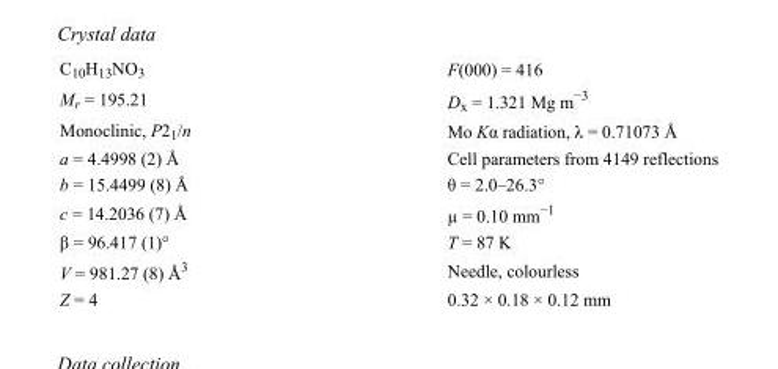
<table><tbody><tr><td>C<sub>10</sub>H<sub>13</sub>NO<sub>3</sub></td><td>F(000) = 416</td></tr><tr><td>M<sub>r</sub> = 195.21</td><td>D<sub>x</sub> = 1.321 Mg m<sup>−3</sup></td></tr><tr><td>Monoclinic, P2<sub>1</sub>/n</td><td>Mo Kα radiation, λ = 0.71073 Å</td></tr><tr><td>a = 4.4998 (2) Å</td><td>Cell parameters from 4149 reflections</td></tr><tr><td>b = 15.4499 (8) Å</td><td>θ = 2.0–26.3°</td></tr><tr><td>c = 14.2036 (7) Å</td><td>µ = 0.10 mm<sup>−1</sup></td></tr><tr><td>β = 96.417 (1)°</td><td>T = 87 K</td></tr><tr><td>V = 981.27 (8) Å<sup>3</sup></td><td>Needle, colourless</td></tr><tr><td>Z = 4</td><td>0.32 × 0.18 × 0.12 mm</td></tr></tbody></table>